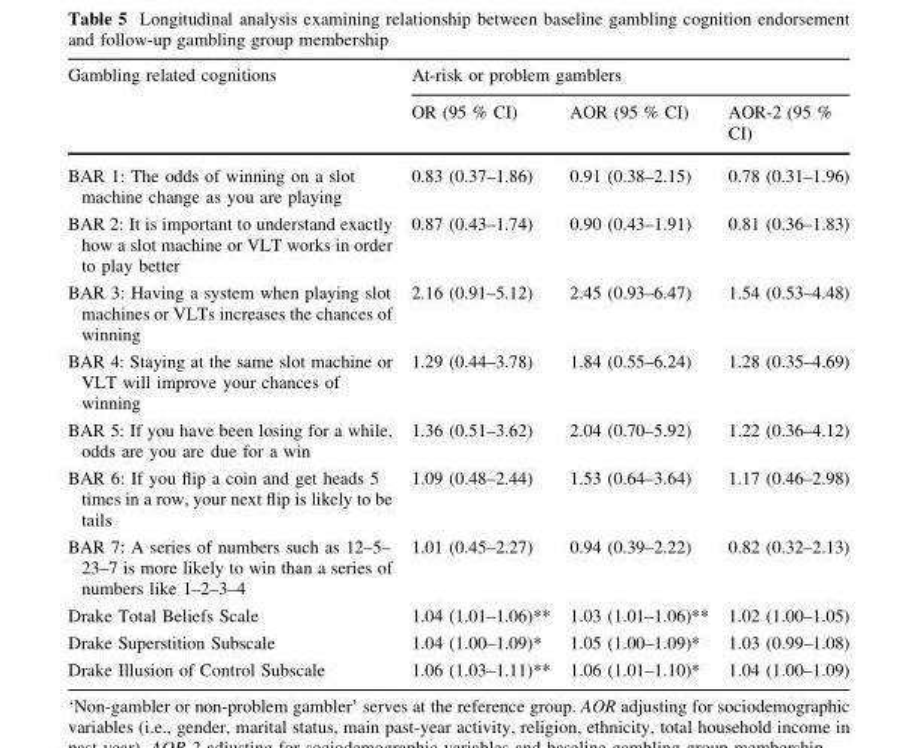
<table><thead><tr><td rowspan="2">Gambling related cognitions</td><td colspan="3">At-risk or problem gamblers</td></tr><tr><td>OR (95 % CI)</td><td>AOR (95 % CI)</td><td>AOR-2 (95 % CI)</td></tr></thead><tbody><tr><td>BAR 1: The odds of winning on a slot machine change as you are playing</td><td>0.83 (0.37–1.86)</td><td>0.91 (0.38–2.15)</td><td>0.78 (0.31–1.96)</td></tr><tr><td>BAR 2: It is important to understand exactly how a slot machine or VLT works in order to play better</td><td>0.87 (0.43–1.74)</td><td>0.90 (0.43–1.91)</td><td>0.81 (0.36–1.83)</td></tr><tr><td>BAR 3: Having a system when playing slot machines or VLTs increases the chances of winning</td><td>2.16 (0.91–5.12)</td><td>2.45 (0.93–6.47)</td><td>1.54 (0.53–4.48)</td></tr><tr><td>BAR 4: Staying at the same slot machine or VLT will improve your chances of winning</td><td>1.29 (0.44–3.78)</td><td>1.84 (0.55–6.24)</td><td>1.28 (0.35–4.69)</td></tr><tr><td>BAR 5: If you have been losing for a while, odds are you are due for a win</td><td>1.36 (0.51–3.62)</td><td>2.04 (0.70–5.92)</td><td>1.22 (0.36–4.12)</td></tr><tr><td>BAR 6: If you flip a coin and get heads 5 times in a row, your next flip is likely to be tails</td><td>1.09 (0.48–2.44)</td><td>1.53 (0.64–3.64)</td><td>1.17 (0.46–2.98)</td></tr><tr><td>BAR 7: A series of numbers such as 12–5– 23–7 is more likely to win than a series of numbers like 1–2–3–4</td><td>1.01 (0.45–2.27)</td><td>0.94 (0.39–2.22)</td><td>0.82 (0.32–2.13)</td></tr><tr><td>Drake Total Beliefs Scale</td><td>1.04 (1.01–1.06)**</td><td>1.03 (1.01–1.06)**</td><td>1.02 (1.00–1.05)</td></tr><tr><td>Drake Superstition Subscale</td><td>1.04 (1.00–1.09)*</td><td>1.05 (1.00–1.09)*</td><td>1.03 (0.99–1.08)</td></tr><tr><td>Drake Illusion of Control Subscale</td><td>1.06 (1.03–1.11)**</td><td>1.06 (1.01–1.10)*</td><td>1.04 (1.00–1.09)</td></tr></tbody></table>